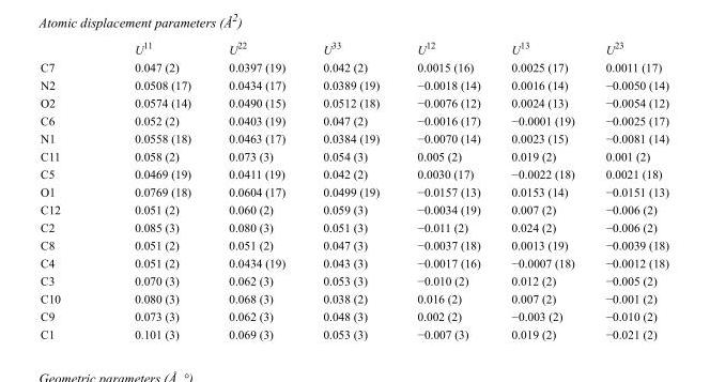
<table><thead><tr><td></td><td>U<sup>11</sup></td><td>U<sup>22</sup></td><td>U<sup>33</sup></td><td>U<sup>12</sup></td><td>U<sup>13</sup></td><td>U<sup>23</sup></td></tr></thead><tbody><tr><td>C7</td><td>0.047 (2)</td><td>0.0397 (19)</td><td>0.042 (2)</td><td>0.0015 (16)</td><td>0.0025 (17)</td><td>0.0011 (17)</td></tr><tr><td>N2</td><td>0.0508 (17)</td><td>0.0434 (17)</td><td>0.0389 (19)</td><td>−0.0018 (14)</td><td>0.0016 (14)</td><td>−0.0050 (14)</td></tr><tr><td>O2</td><td>0.0574 (14)</td><td>0.0490 (15)</td><td>0.0512 (18)</td><td>−0.0076 (12)</td><td>0.0024 (13)</td><td>−0.0054 (12)</td></tr><tr><td>C6</td><td>0.052 (2)</td><td>0.0403 (19)</td><td>0.047 (2)</td><td>−0.0016 (17)</td><td>−0.0001 (19)</td><td>−0.0025 (17)</td></tr><tr><td>N1</td><td>0.0558 (18)</td><td>0.0463 (17)</td><td>0.0384 (19)</td><td>−0.0070 (14)</td><td>0.0023 (15)</td><td>−0.0081 (14)</td></tr><tr><td>C11</td><td>0.058 (2)</td><td>0.073 (3)</td><td>0.054 (3)</td><td>0.005 (2)</td><td>0.019 (2)</td><td>0.001 (2)</td></tr><tr><td>C5</td><td>0.0469 (19)</td><td>0.0411 (19)</td><td>0.042 (2)</td><td>0.0030 (17)</td><td>−0.0022 (18)</td><td>0.0021 (18)</td></tr><tr><td>O1</td><td>0.0769 (18)</td><td>0.0604 (17)</td><td>0.0499 (19)</td><td>−0.0157 (13)</td><td>0.0153 (14)</td><td>−0.0151 (13)</td></tr><tr><td>C12</td><td>0.051 (2)</td><td>0.060 (2)</td><td>0.059 (3)</td><td>−0.0034 (19)</td><td>0.007 (2)</td><td>−0.006 (2)</td></tr><tr><td>C2</td><td>0.085 (3)</td><td>0.080 (3)</td><td>0.051 (3)</td><td>−0.011 (2)</td><td>0.024 (2)</td><td>−0.006 (2)</td></tr><tr><td>C8</td><td>0.051 (2)</td><td>0.051 (2)</td><td>0.047 (3)</td><td>−0.0037 (18)</td><td>0.0013 (19)</td><td>−0.0039 (18)</td></tr><tr><td>C4</td><td>0.051 (2)</td><td>0.0434 (19)</td><td>0.043 (3)</td><td>−0.0017 (16)</td><td>−0.0007 (18)</td><td>−0.0012 (18)</td></tr><tr><td>C3</td><td>0.070 (3)</td><td>0.062 (3)</td><td>0.053 (3)</td><td>−0.010 (2)</td><td>0.012 (2)</td><td>−0.005 (2)</td></tr><tr><td>C10</td><td>0.080 (3)</td><td>0.068 (3)</td><td>0.038 (2)</td><td>0.016 (2)</td><td>0.007 (2)</td><td>−0.001 (2)</td></tr><tr><td>C9</td><td>0.073 (3)</td><td>0.062 (3)</td><td>0.048 (3)</td><td>0.002 (2)</td><td>−0.003 (2)</td><td>−0.010 (2)</td></tr><tr><td>C1</td><td>0.101 (3)</td><td>0.069 (3)</td><td>0.053 (3)</td><td>−0.007 (3)</td><td>0.019 (2)</td><td>−0.021 (2)</td></tr></tbody></table>